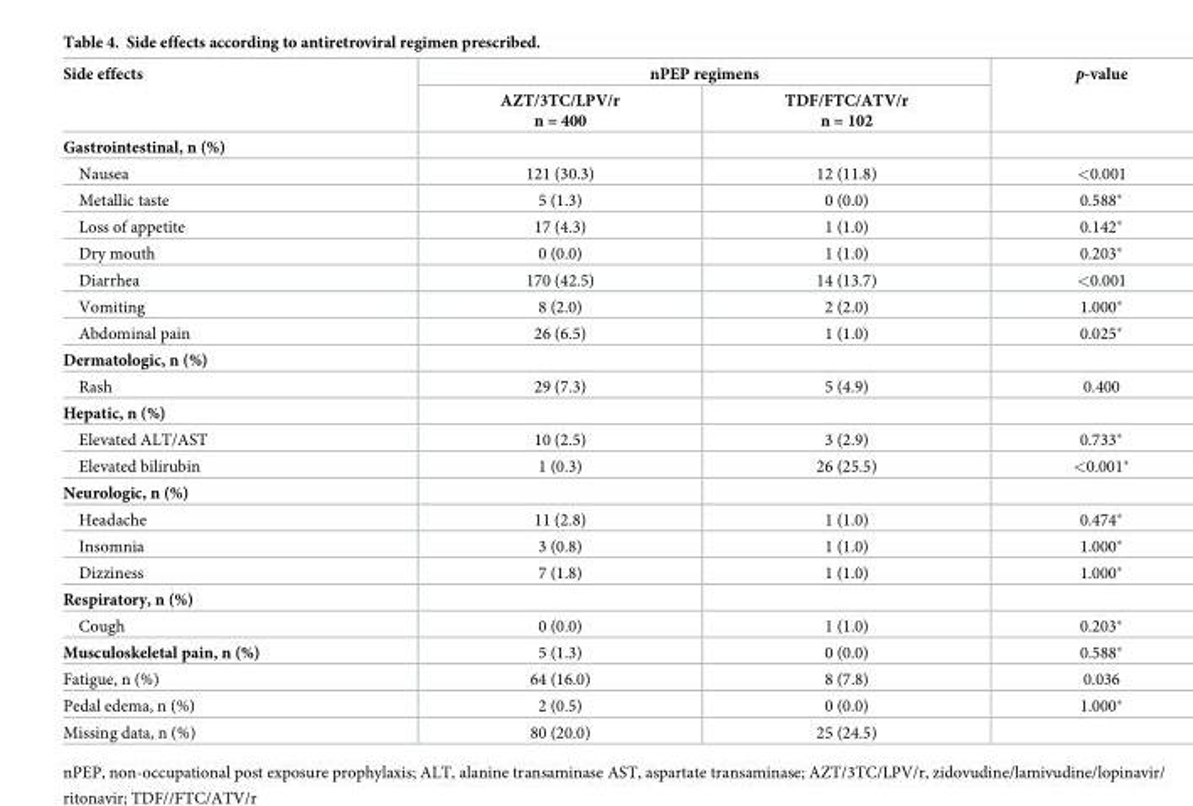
<table><thead><tr><td rowspan="2">Side effects</td><td colspan="2">nPEP regimens</td><td rowspan="2">p-value</td></tr><tr><td>AZT/3TC/LPV/r n = 400</td><td>TDF/FTC/ATV/r n = 102</td></tr></thead><tbody><tr><td colspan="4">Gastrointestinal, n (%)</td></tr><tr><td>Nausea</td><td>121 (30.3)</td><td>12 (11.8)</td><td>&lt;0.001</td></tr><tr><td>Metallic taste</td><td>5 (1.3)</td><td>0 (0.0)</td><td>0.588*</td></tr><tr><td>Loss of appetite</td><td>17 (4.3)</td><td>1 (1.0)</td><td>0.142*</td></tr><tr><td>Dry mouth</td><td>0 (0.0)</td><td>1 (1.0)</td><td>0.203*</td></tr><tr><td>Diarrhea</td><td>170 (42.5)</td><td>14 (13.7)</td><td>&lt;0.001</td></tr><tr><td>Vomiting</td><td>8 (2.0)</td><td>2 (2.0)</td><td>1.000*</td></tr><tr><td>Abdominal pain</td><td>26 (6.5)</td><td>1 (1.0)</td><td>0.025*</td></tr><tr><td colspan="4">Dermatologic, n (%)</td></tr><tr><td>Rash</td><td>29 (7.3)</td><td>5 (4.9)</td><td>0.400</td></tr><tr><td colspan="4">Hepatic, n (%)</td></tr><tr><td>Elevated ALT/AST</td><td>10 (2.5)</td><td>3 (2.9)</td><td>0.733*</td></tr><tr><td>Elevated bilirubin</td><td>1 (0.3)</td><td>26 (25.5)</td><td>&lt;0.001*</td></tr><tr><td colspan="4">Neurologic, n (%)</td></tr><tr><td>Headache</td><td>11 (2.8)</td><td>1 (1.0)</td><td>0.474*</td></tr><tr><td>Insomnia</td><td>3 (0.8)</td><td>1 (1.0)</td><td>1.000*</td></tr><tr><td>Dizziness</td><td>7 (1.8)</td><td>1 (1.0)</td><td>1.000*</td></tr><tr><td colspan="4">Respiratory, n (%)</td></tr><tr><td>Cough</td><td>0 (0.0)</td><td>1 (1.0)</td><td>0.203*</td></tr><tr><td>Musculoskeletal pain, n (%)</td><td>5 (1.3)</td><td>0 (0.0)</td><td>0.588*</td></tr><tr><td>Fatigue, n (%)</td><td>64 (16.0)</td><td>8 (7.8)</td><td>0.036</td></tr><tr><td>Pedal edema, n (%)</td><td>2 (0.5)</td><td>0 (0.0)</td><td>1.000*</td></tr><tr><td>Missing data, n (%)</td><td>80 (20.0)</td><td>25 (24.5)</td><td></td></tr></tbody></table>